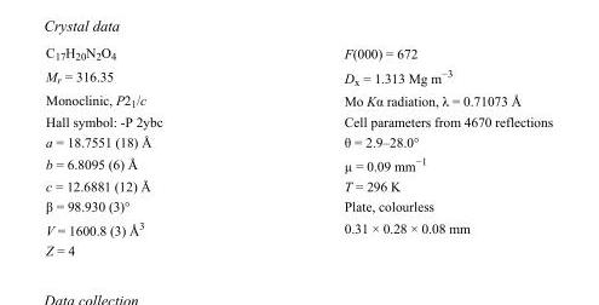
<table><tbody><tr><td>C<sub>17</sub>H<sub>20</sub>N<sub>2</sub>O<sub>4</sub></td><td>F(000) = 672</td></tr><tr><td>M<sub>r</sub> = 316.35</td><td>D<sub>x</sub> = 1.313 Mg m<sup>−3</sup></td></tr><tr><td>Monoclinic, P2<sub>1</sub>/c</td><td>Mo Kα radiation, λ = 0.71073 Å</td></tr><tr><td>Hall symbol: -P 2ybc</td><td>Cell parameters from 4670 reflections</td></tr><tr><td>a = 18.7551 (18) Å</td><td>θ = 2.9–28.0°</td></tr><tr><td>b = 6.8095 (6) Å</td><td>µ = 0.09 mm<sup>−1</sup></td></tr><tr><td>c = 12.6881 (12) Å</td><td>T = 296 K</td></tr><tr><td>β = 98.930 (3)°</td><td>Plate, colourless</td></tr><tr><td>V = 1600.8 (3) Å<sup>3</sup></td><td>0.31 × 0.28 × 0.08 mm</td></tr><tr><td>Z = 4</td><td></td></tr></tbody></table>